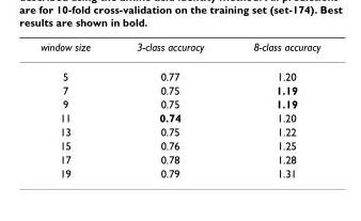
<table><thead><tr><td>window size</td><td>3-class accuracy</td><td>8-class accuracy</td></tr></thead><tbody><tr><td>5</td><td>0.77</td><td>1.20</td></tr><tr><td>7</td><td>0.75</td><td>1.19</td></tr><tr><td>9</td><td>0.75</td><td>1.19</td></tr><tr><td>11</td><td>0.74</td><td>1.20</td></tr><tr><td>13</td><td>0.75</td><td>1.22</td></tr><tr><td>15</td><td>0.76</td><td>1.25</td></tr><tr><td>17</td><td>0.78</td><td>1.28</td></tr><tr><td>19</td><td>0.79</td><td>1.31</td></tr></tbody></table>